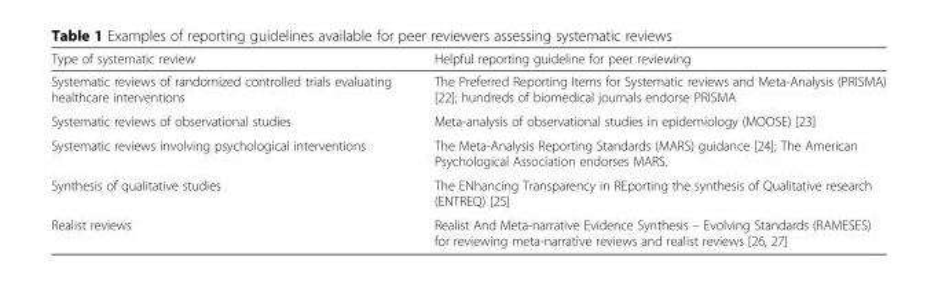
<table><thead><tr><td>Type of systematic review</td><td>Helpful reporting guideline for peer reviewing</td></tr></thead><tbody><tr><td>Systematic reviews of randomized controlled trials evaluating healthcare interventions</td><td>The Preferred Reporting Items for Systematic reviews and Meta-Analysis (PRISMA) [22]; hundreds of biomedical journals endorse PRISMA</td></tr><tr><td>Systematic reviews of observational studies</td><td>Meta-analysis of observational studies in epidemiology (MOOSE) [23]</td></tr><tr><td>Systematic reviews involving psychological interventions</td><td>The Meta-Analysis Reporting Standards (MARS) guidance [24]; The American Psychological Association endorses MARS.</td></tr><tr><td>Synthesis of qualitative studies</td><td>The ENhancing Transparency in REporting the synthesis of Qualitative research (ENTREQ) [25]</td></tr><tr><td>Realist reviews</td><td>Realist And Meta-narrative Evidence Synthesis – Evolving Standards (RAMESES) for reviewing meta-narrative reviews and realist reviews [26, 27]</td></tr></tbody></table>